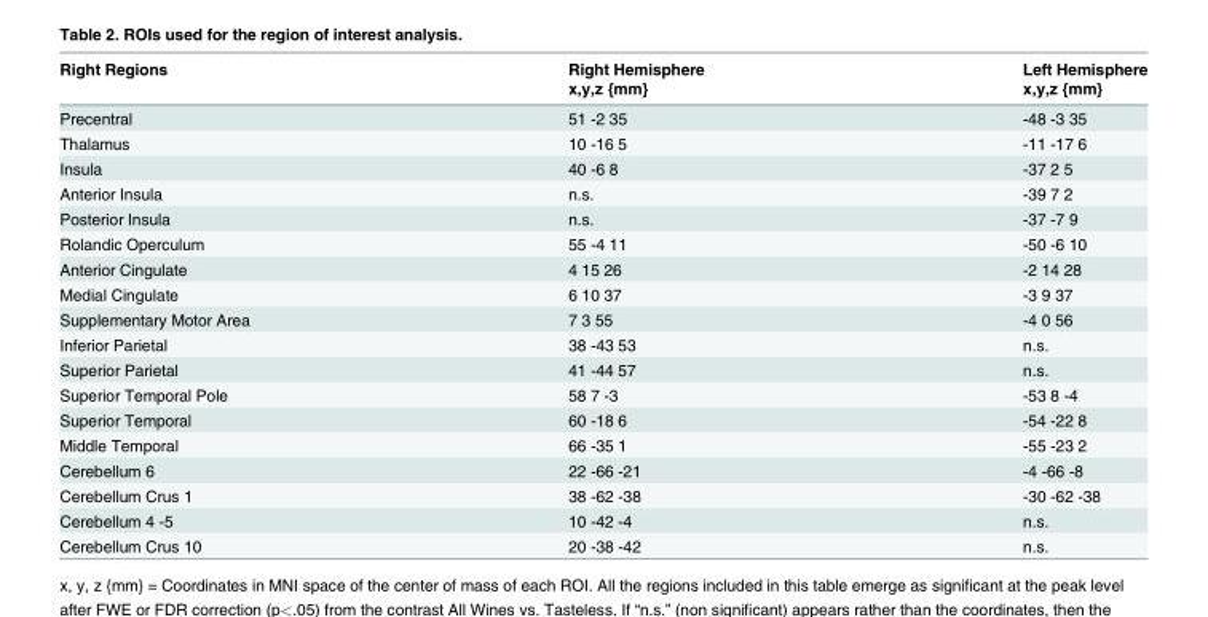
<table><thead><tr><td rowspan="2">Right Regions</td><td rowspan="2">Right Hemisphere x,y,z {mm}</td><td rowspan="2">Left Hemisphere x,y,z {mm}</td></tr><tr></tr></thead><tbody><tr><td>Precentral</td><td>51 -2 35</td><td>-48 -3 35</td></tr><tr><td>Thalamus</td><td>10 -16 5</td><td>-11 -17 6</td></tr><tr><td>Insula</td><td>40 -6 8</td><td>-37 2 5</td></tr><tr><td>Anterior Insula</td><td>n.s.</td><td>-39 7 2</td></tr><tr><td>Posterior Insula</td><td>n.s.</td><td>-37 -7 9</td></tr><tr><td>Rolandic Operculum</td><td>55 -4 11</td><td>-50 -6 10</td></tr><tr><td>Anterior Cingulate</td><td>4 15 26</td><td>-2 14 28</td></tr><tr><td>Medial Cingulate</td><td>6 10 37</td><td>-3 9 37</td></tr><tr><td>Supplementary Motor Area</td><td>7 3 55</td><td>-4 0 56</td></tr><tr><td>Inferior Parietal</td><td>38 -43 53</td><td>n.s.</td></tr><tr><td>Superior Parietal</td><td>41 -44 57</td><td>n.s.</td></tr><tr><td>Superior Temporal Pole</td><td>58 7 -3</td><td>-53 8 -4</td></tr><tr><td>Superior Temporal</td><td>60 -18 6</td><td>-54 -22 8</td></tr><tr><td>Middle Temporal</td><td>66 -35 1</td><td>-55 -23 2</td></tr><tr><td>Cerebellum 6</td><td>22 -66 -21</td><td>-4 -66 -8</td></tr><tr><td>Cerebellum Crus 1</td><td>38 -62 -38</td><td>-30 -62 -38</td></tr><tr><td>Cerebellum 4 -5</td><td>10 -42 -4</td><td>n.s.</td></tr><tr><td>Cerebellum Crus 10</td><td>20 -38 -42</td><td>n.s.</td></tr></tbody></table>